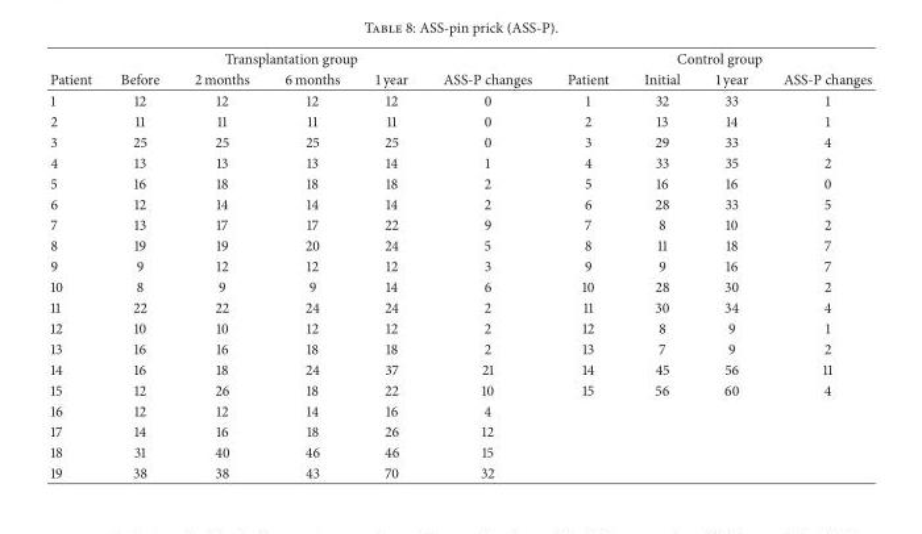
<table><thead><tr><td colspan="6">Transplantation group</td><td colspan="4">Control group</td></tr><tr><td>Patient</td><td>Before</td><td>2 months</td><td>6 months</td><td>1 year</td><td>ASS-P changes</td><td>Patient</td><td>Initial</td><td>1 year</td><td>ASS-P changes</td></tr></thead><tbody><tr><td>1</td><td>12</td><td>12</td><td>12</td><td>12</td><td>0</td><td>1</td><td>32</td><td>33</td><td>1</td></tr><tr><td>2</td><td>11</td><td>11</td><td>11</td><td>11</td><td>0</td><td>2</td><td>13</td><td>14</td><td>1</td></tr><tr><td>3</td><td>25</td><td>25</td><td>25</td><td>25</td><td>0</td><td>3</td><td>29</td><td>33</td><td>4</td></tr><tr><td>4</td><td>13</td><td>13</td><td>13</td><td>14</td><td>1</td><td>4</td><td>33</td><td>35</td><td>2</td></tr><tr><td>5</td><td>16</td><td>18</td><td>18</td><td>18</td><td>2</td><td>5</td><td>16</td><td>16</td><td>0</td></tr><tr><td>6</td><td>12</td><td>14</td><td>14</td><td>14</td><td>2</td><td>6</td><td>28</td><td>33</td><td>5</td></tr><tr><td>7</td><td>13</td><td>17</td><td>17</td><td>22</td><td>9</td><td>7</td><td>8</td><td>10</td><td>2</td></tr><tr><td>8</td><td>19</td><td>19</td><td>20</td><td>24</td><td>5</td><td>8</td><td>11</td><td>18</td><td>7</td></tr><tr><td>9</td><td>9</td><td>12</td><td>12</td><td>12</td><td>3</td><td>9</td><td>9</td><td>16</td><td>7</td></tr><tr><td>10</td><td>8</td><td>9</td><td>9</td><td>14</td><td>6</td><td>10</td><td>28</td><td>30</td><td>2</td></tr><tr><td>11</td><td>22</td><td>22</td><td>24</td><td>24</td><td>2</td><td>11</td><td>30</td><td>34</td><td>4</td></tr><tr><td>12</td><td>10</td><td>10</td><td>12</td><td>12</td><td>2</td><td>12</td><td>8</td><td>9</td><td>1</td></tr><tr><td>13</td><td>16</td><td>16</td><td>18</td><td>18</td><td>2</td><td>13</td><td>7</td><td>9</td><td>2</td></tr><tr><td>14</td><td>16</td><td>18</td><td>24</td><td>37</td><td>21</td><td>14</td><td>45</td><td>56</td><td>11</td></tr><tr><td>15</td><td>12</td><td>26</td><td>18</td><td>22</td><td>10</td><td>15</td><td>56</td><td>60</td><td>4</td></tr><tr><td>16</td><td>12</td><td>12</td><td>14</td><td>16</td><td>4</td><td></td><td></td><td></td><td></td></tr><tr><td>17</td><td>14</td><td>16</td><td>18</td><td>26</td><td>12</td><td></td><td></td><td></td><td></td></tr><tr><td>18</td><td>31</td><td>40</td><td>46</td><td>46</td><td>15</td><td></td><td></td><td></td><td></td></tr><tr><td>19</td><td>38</td><td>38</td><td>43</td><td>70</td><td>32</td><td></td><td></td><td></td><td></td></tr></tbody></table>